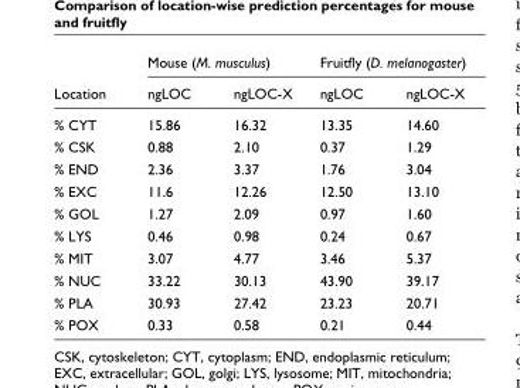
<table><thead><tr><td rowspan="2">Location</td><td colspan="2">Mouse (M. musculus)</td><td colspan="2">Fruitfly (D. melanogaster)</td></tr><tr><td>ngLOC</td><td>ngLOC-X</td><td>ngLOC</td><td>ngLOC-X</td></tr></thead><tbody><tr><td>% CYT</td><td>15.86</td><td>16.32</td><td>13.35</td><td>14.60</td></tr><tr><td>% CSK</td><td>0.88</td><td>2.10</td><td>0.37</td><td>1.29</td></tr><tr><td>% END</td><td>2.36</td><td>3.37</td><td>1.76</td><td>3.04</td></tr><tr><td>% EXC</td><td>11.6</td><td>12.26</td><td>12.50</td><td>13.10</td></tr><tr><td>% GOL</td><td>1.27</td><td>2.09</td><td>0.97</td><td>1.60</td></tr><tr><td>% LYS</td><td>0.46</td><td>0.98</td><td>0.24</td><td>0.67</td></tr><tr><td>% MIT</td><td>3.07</td><td>4.77</td><td>3.46</td><td>5.37</td></tr><tr><td>% NUC</td><td>33.22</td><td>30.13</td><td>43.90</td><td>39.17</td></tr><tr><td>% PLA</td><td>30.93</td><td>27.42</td><td>23.23</td><td>20.71</td></tr><tr><td>% POX</td><td>0.33</td><td>0.58</td><td>0.21</td><td>0.44</td></tr></tbody></table>